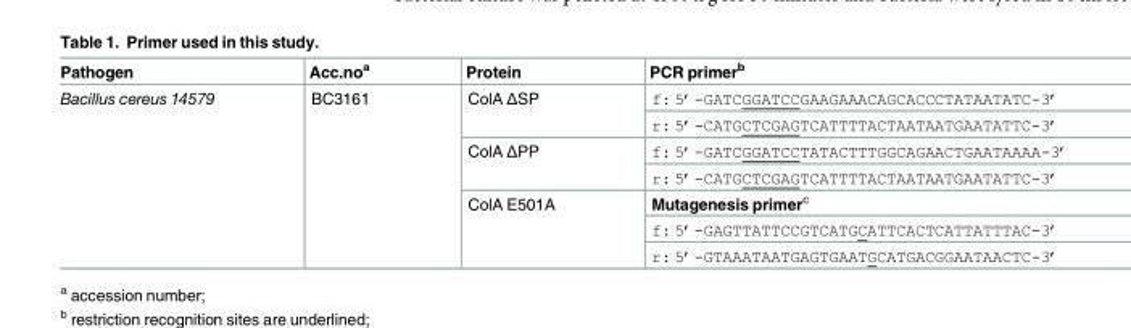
<table><thead><tr><td>Pathogen</td><td>Acc.no<sup>a</sup></td><td>Protein</td><td>PCR primer<sup>b</sup></td></tr></thead><tbody><tr><td rowspan="7">Bacillus cereus 14579</td><td rowspan="7">BC3161</td><td rowspan="2">ColA ΔSP</td><td>f: 5’-GATCGGATCCGAAGAAACAGCACCCTATAATATC-3’</td></tr><tr><td>r: 5’-CATGCTCGAGTCATTTTACTAATAATGAATATTC-3’</td></tr><tr><td rowspan="2">ColA ΔPP</td><td>f: 5’-GATCGGATCCTATACTTTGGCAGAACTGAATAAAA-3’</td></tr><tr><td>r: 5’-CATGCTCGAGTCATTTTACTAATAATGAATATTC-3’</td></tr><tr><td rowspan="3">ColA E501A</td><td>Mutagenesis primer<sup>c</sup></td></tr><tr><td>f: 5’-GAGTTATTCCGTCATGCATTCACTCATTATTTAC-3’</td></tr><tr><td>r: 5’-GTAAATAATGAGTGAATGCATGACGGAATAACTC-3’</td></tr></tbody></table>